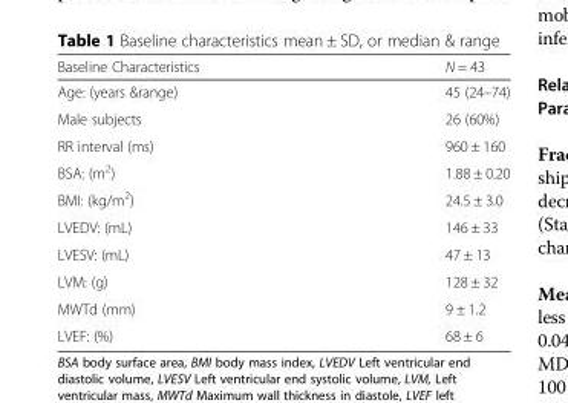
<table><thead><tr><td>Baseline Characteristics</td><td>N = 43</td></tr></thead><tbody><tr><td>Age: (years &amp;range)</td><td>45 (24–74)</td></tr><tr><td>Male subjects</td><td>26 (60%)</td></tr><tr><td>RR interval (ms)</td><td>960 ± 160</td></tr><tr><td>BSA: (m<sup>2</sup>)</td><td>1.88 ± 0.20</td></tr><tr><td>BMI: (kg/m<sup>2</sup>)</td><td>24.5 ± 3.0</td></tr><tr><td>LVEDV: (mL)</td><td>146 ± 33</td></tr><tr><td>LVESV: (mL)</td><td>47 ± 13</td></tr><tr><td>LVM: (g)</td><td>128 ± 32</td></tr><tr><td>MWTd (mm)</td><td>9 ± 1.2</td></tr><tr><td>LVEF: (%)</td><td>68 ± 6</td></tr></tbody></table>